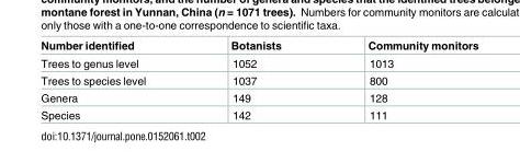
<table><thead><tr><td>Number identified</td><td>Botanists</td><td>Community monitors</td></tr></thead><tbody><tr><td>Trees to genus level</td><td>1052</td><td>1013</td></tr><tr><td>Trees to species level</td><td>1037</td><td>800</td></tr><tr><td>Genera</td><td>149</td><td>128</td></tr><tr><td>Species</td><td>142</td><td>111</td></tr></tbody></table>